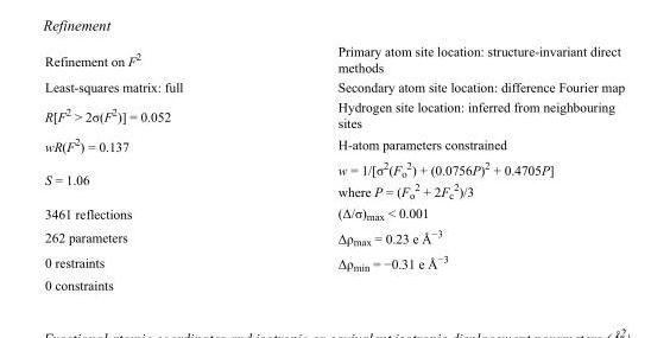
<table><tbody><tr><td>Refinement on F<sup>2</sup></td><td>Primary atom site location: structure-invariant direct methods</td></tr><tr><td>Least-squares matrix: full</td><td>Secondary atom site location: difference Fourier map</td></tr><tr><td>R[F<sup>2</sup> &gt; 2σ(F<sup>2</sup>)] = 0.052</td><td>Hydrogen site location: inferred from neighbouring sites</td></tr><tr><td>wR(F<sup>2</sup>) = 0.137</td><td>H-atom parameters constrained</td></tr><tr><td>S = 1.06</td><td>w = 1/[σ<sup>2</sup>(F<sub>o</sub> <sup>2</sup>) + (0.0756P)<sup>2</sup> + 0.4705P] where P = (F<sub>o</sub> <sup>2</sup> + 2F<sub>c</sub> <sup>2</sup>)/3</td></tr><tr><td>3461 reflections</td><td>(Δ/σ)<sub>max</sub> &lt; 0.001</td></tr><tr><td>262 parameters</td><td>Δρ<sub>max</sub> = 0.23 e Å<sup>−3</sup></td></tr><tr><td>0 restraints</td><td>Δρ<sub>min</sub> = −0.31 e Å<sup>−3</sup></td></tr><tr><td>0 constraints</td><td></td></tr></tbody></table>